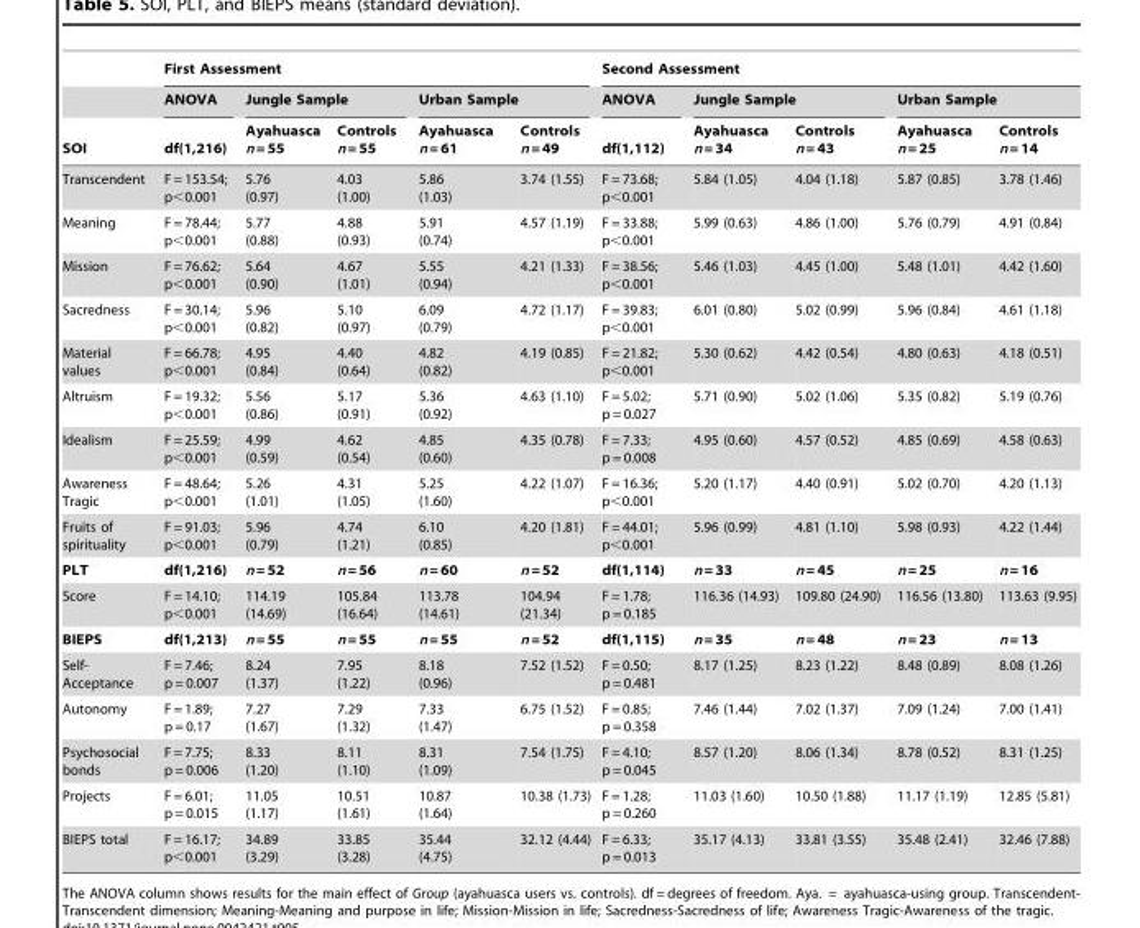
<table><thead><tr><td rowspan="3">SOI</td><td colspan="5">First Assessment</td><td colspan="5">Second Assessment</td></tr><tr><td rowspan="2">ANOVA df(1,216)</td><td colspan="2">Jungle Sample</td><td colspan="2">Urban Sample</td><td rowspan="2">ANOVA df(1,112)</td><td colspan="2">Jungle Sample</td><td colspan="2">Urban Sample</td></tr><tr><td>Ayahuasca n = 55</td><td>Controls n = 55</td><td>Ayahuasca n = 61</td><td>Controls n = 49</td><td>Ayahuasca n = 34</td><td>Controls n = 43</td><td>Ayahuasca n = 25</td><td>Controls n = 14</td></tr></thead><tbody><tr><td>Transcendent</td><td>F = 153.54; p&lt;0.001</td><td>5.76 (0.97)</td><td>4.03 (1.00)</td><td>5.86 (1.03)</td><td>3.74 (1.55)</td><td>F = 73.68; p&lt;0.001</td><td>5.84 (1.05)</td><td>4.04 (1.18)</td><td>5.87 (0.85)</td><td>3.78 (1.46)</td></tr><tr><td>Meaning</td><td>F = 78.44; p&lt;0.001</td><td>5.77 (0.88)</td><td>4.88 (0.93)</td><td>5.91 (0.74)</td><td>4.57 (1.19)</td><td>F = 33.88; p&lt;0.001</td><td>5.99 (0.63)</td><td>4.86 (1.00)</td><td>5.76 (0.79)</td><td>4.91 (0.84)</td></tr><tr><td>Mission</td><td>F = 76.62; p&lt;0.001</td><td>5.64 (0.90)</td><td>4.67 (1.01)</td><td>5.55 (0.94)</td><td>4.21 (1.33)</td><td>F = 38.56; p&lt;0.001</td><td>5.46 (1.03)</td><td>4.45 (1.00)</td><td>5.48 (1.01)</td><td>4.42 (1.60)</td></tr><tr><td>Sacredness</td><td>F = 30.14; p&lt;0.001</td><td>5.96 (0.82)</td><td>5.10 (0.97)</td><td>6.09 (0.79)</td><td>4.72 (1.17)</td><td>F = 39.83; p&lt;0.001</td><td>6.01 (0.80)</td><td>5.02 (0.99)</td><td>5.96 (0.84)</td><td>4.61 (1.18)</td></tr><tr><td>Material values</td><td>F = 66.78; p&lt;0.001</td><td>4.95 (0.84)</td><td>4.40 (0.64)</td><td>4.82 (0.82)</td><td>4.19 (0.85)</td><td>F = 21.82; p&lt;0.001</td><td>5.30 (0.62)</td><td>4.42 (0.54)</td><td>4.80 (0.63)</td><td>4.18 (0.51)</td></tr><tr><td>Altruism</td><td>F = 19.32; p&lt;0.001</td><td>5.56 (0.86)</td><td>5.17 (0.91)</td><td>5.36 (0.92)</td><td>4.63 (1.10)</td><td>F = 5.02; p = 0.027</td><td>5.71 (0.90)</td><td>5.02 (1.06)</td><td>5.35 (0.82)</td><td>5.19 (0.76)</td></tr><tr><td>Idealism</td><td>F = 25.59; p&lt;0.001</td><td>4.99 (0.59)</td><td>4.62 (0.54)</td><td>4.85 (0.60)</td><td>4.35 (0.78)</td><td>F = 7.33; p = 0.008</td><td>4.95 (0.60)</td><td>4.57 (0.52)</td><td>4.85 (0.69)</td><td>4.58 (0.63)</td></tr><tr><td>Awareness Tragic</td><td>F = 48.64; p&lt;0.001</td><td>5.26 (1.01)</td><td>4.31 (1.05)</td><td>5.25 (1.60)</td><td>4.22 (1.07)</td><td>F = 16.36; p&lt;0.001</td><td>5.20 (1.17)</td><td>4.40 (0.91)</td><td>5.02 (0.70)</td><td>4.20 (1.13)</td></tr><tr><td>Fruits of spirituality</td><td>F = 91.03; p&lt;0.001</td><td>5.96 (0.79)</td><td>4.74 (1.21)</td><td>6.10 (0.85)</td><td>4.20 (1.81)</td><td>F = 44.01; p&lt;0.001</td><td>5.96 (0.99)</td><td>4.81 (1.10)</td><td>5.98 (0.93)</td><td>4.22 (1.44)</td></tr><tr><td>PLT</td><td>df(1,216)</td><td>n = 52</td><td>n = 56</td><td>n = 60</td><td>n = 52</td><td>df(1,114)</td><td>n = 33</td><td>n = 45</td><td>n = 25</td><td>n = 16</td></tr><tr><td>Score</td><td>F = 14.10; p&lt;0.001</td><td>114.19 (14.69)</td><td>105.84 (16.64)</td><td>113.78 (14.61)</td><td>104.94 (21.34)</td><td>F = 1.78; p = 0.185</td><td>116.36 (14.93)</td><td>109.80 (24.90)</td><td>116.56 (13.80)</td><td>113.63 (9.95)</td></tr><tr><td>BIEPS</td><td>df(1,213)</td><td>n = 55</td><td>n = 55</td><td>n = 55</td><td>n = 52</td><td>df(1,115)</td><td>n = 35</td><td>n = 48</td><td>n = 23</td><td>n = 13</td></tr><tr><td>Self- Acceptance</td><td>F = 7.46; p = 0.007</td><td>8.24 (1.37)</td><td>7.95 (1.22)</td><td>8.18 (0.96)</td><td>7.52 (1.52)</td><td>F = 0.50; p = 0.481</td><td>8.17 (1.25)</td><td>8.23 (1.22)</td><td>8.48 (0.89)</td><td>8.08 (1.26)</td></tr><tr><td>Autonomy</td><td>F = 1.89; p = 0.17</td><td>7.27 (1.67)</td><td>7.29 (1.32)</td><td>7.33 (1.47)</td><td>6.75 (1.52)</td><td>F = 0.85; p = 0.358</td><td>7.46 (1.44)</td><td>7.02 (1.37)</td><td>7.09 (1.24)</td><td>7.00 (1.41)</td></tr><tr><td>Psychosocial bonds</td><td>F = 7.75; p = 0.006</td><td>8.33 (1.20)</td><td>8.11 (1.10)</td><td>8.31 (1.09)</td><td>7.54 (1.75)</td><td>F = 4.10; p = 0.045</td><td>8.57 (1.20)</td><td>8.06 (1.34)</td><td>8.78 (0.52)</td><td>8.31 (1.25)</td></tr><tr><td>Projects</td><td>F = 6.01; p = 0.015</td><td>11.05 (1.17)</td><td>10.51 (1.61)</td><td>10.87 (1.64)</td><td>10.38 (1.73)</td><td>F = 1.28; p = 0.260</td><td>11.03 (1.60)</td><td>10.50 (1.88)</td><td>11.17 (1.19)</td><td>12.85 (5.81)</td></tr><tr><td>BIEPS total</td><td>F = 16.17; p&lt;0.001</td><td>34.89 (3.29)</td><td>33.85 (3.28)</td><td>35.44 (4.75)</td><td>32.12 (4.44)</td><td>F = 6.33; p = 0.013</td><td>35.17 (4.13)</td><td>33.81 (3.55)</td><td>35.48 (2.41)</td><td>32.46 (7.88)</td></tr></tbody></table>